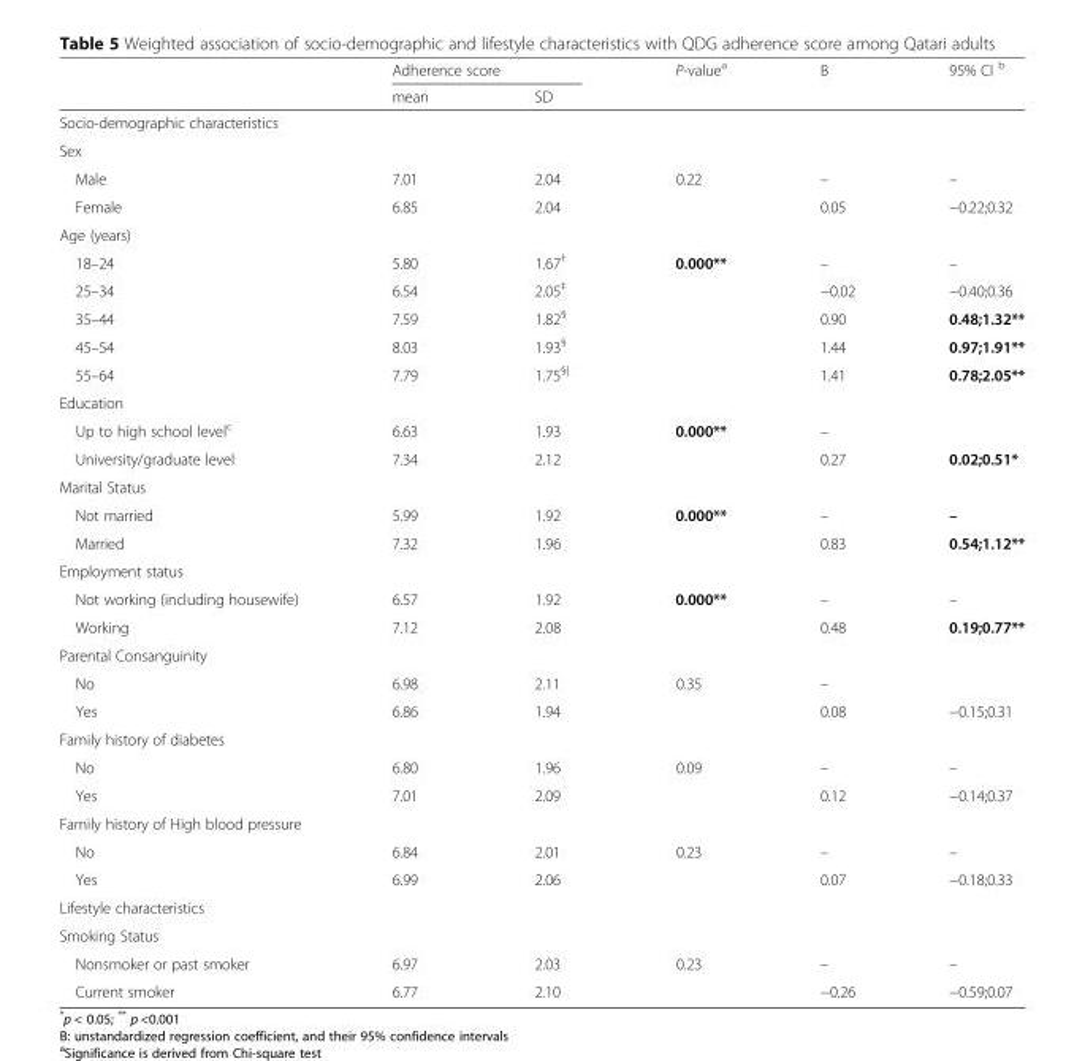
<table><thead><tr><td rowspan="2"></td><td colspan="2">Adherence score</td><td rowspan="2">P-value<sup>a</sup></td><td rowspan="2">B</td><td rowspan="2">95% CI <sup>b</sup></td></tr><tr><td>mean</td><td>SD</td></tr></thead><tbody><tr><td colspan="6">Socio-demographic characteristics</td></tr><tr><td colspan="6">Sex</td></tr><tr><td>Male</td><td>7.01</td><td>2.04</td><td rowspan="2">0.22</td><td>–</td><td>–</td></tr><tr><td>Female</td><td>6.85</td><td>2.04</td><td>0.05</td><td>−0.22;0.32</td></tr><tr><td colspan="6">Age (years)</td></tr><tr><td>18–24</td><td>5.80</td><td>1.67<sup>†</sup></td><td rowspan="5">0.000**</td><td>–</td><td>–</td></tr><tr><td>25–34</td><td>6.54</td><td>2.05<sup>‡</sup></td><td>−0.02</td><td>−0.40;0.36</td></tr><tr><td>35–44</td><td>7.59</td><td>1.82<sup>§</sup></td><td>0.90</td><td>0.48;1.32**</td></tr><tr><td>45–54</td><td>8.03</td><td>1.93<sup>§</sup></td><td>1.44</td><td>0.97;1.91**</td></tr><tr><td>55–64</td><td>7.79</td><td>1.75<sup>§|</sup></td><td>1.41</td><td>0.78;2.05**</td></tr><tr><td colspan="6">Education</td></tr><tr><td>Up to high school level<sup>c</sup></td><td>6.63</td><td>1.93</td><td rowspan="2">0.000**</td><td>–</td><td></td></tr><tr><td>University/graduate level</td><td>7.34</td><td>2.12</td><td>0.27</td><td>0.02;0.51*</td></tr><tr><td colspan="6">Marital Status</td></tr><tr><td>Not married</td><td>5.99</td><td>1.92</td><td rowspan="2">0.000**</td><td>–</td><td>–</td></tr><tr><td>Married</td><td>7.32</td><td>1.96</td><td>0.83</td><td>0.54;1.12**</td></tr><tr><td colspan="6">Employment status</td></tr><tr><td>Not working (including housewife)</td><td>6.57</td><td>1.92</td><td rowspan="2">0.000**</td><td>–</td><td>–</td></tr><tr><td>Working</td><td>7.12</td><td>2.08</td><td>0.48</td><td>0.19;0.77**</td></tr><tr><td colspan="6">Parental Consanguinity</td></tr><tr><td>No</td><td>6.98</td><td>2.11</td><td rowspan="2">0.35</td><td>–</td><td></td></tr><tr><td>Yes</td><td>6.86</td><td>1.94</td><td>0.08</td><td>−0.15;0.31</td></tr><tr><td colspan="6">Family history of diabetes</td></tr><tr><td>No</td><td>6.80</td><td>1.96</td><td rowspan="2">0.09</td><td>–</td><td>–</td></tr><tr><td>Yes</td><td>7.01</td><td>2.09</td><td>0.12</td><td>−0.14;0.37</td></tr><tr><td colspan="6">Family history of High blood pressure</td></tr><tr><td>No</td><td>6.84</td><td>2.01</td><td rowspan="2">0.23</td><td>–</td><td>–</td></tr><tr><td>Yes</td><td>6.99</td><td>2.06</td><td>0.07</td><td>−0.18;0.33</td></tr><tr><td colspan="6">Lifestyle characteristics</td></tr><tr><td colspan="6">Smoking Status</td></tr><tr><td>Nonsmoker or past smoker</td><td>6.97</td><td>2.03</td><td rowspan="2">0.23</td><td>–</td><td>–</td></tr><tr><td>Current smoker</td><td>6.77</td><td>2.10</td><td>−0.26</td><td>−0.59;0.07</td></tr></tbody></table>